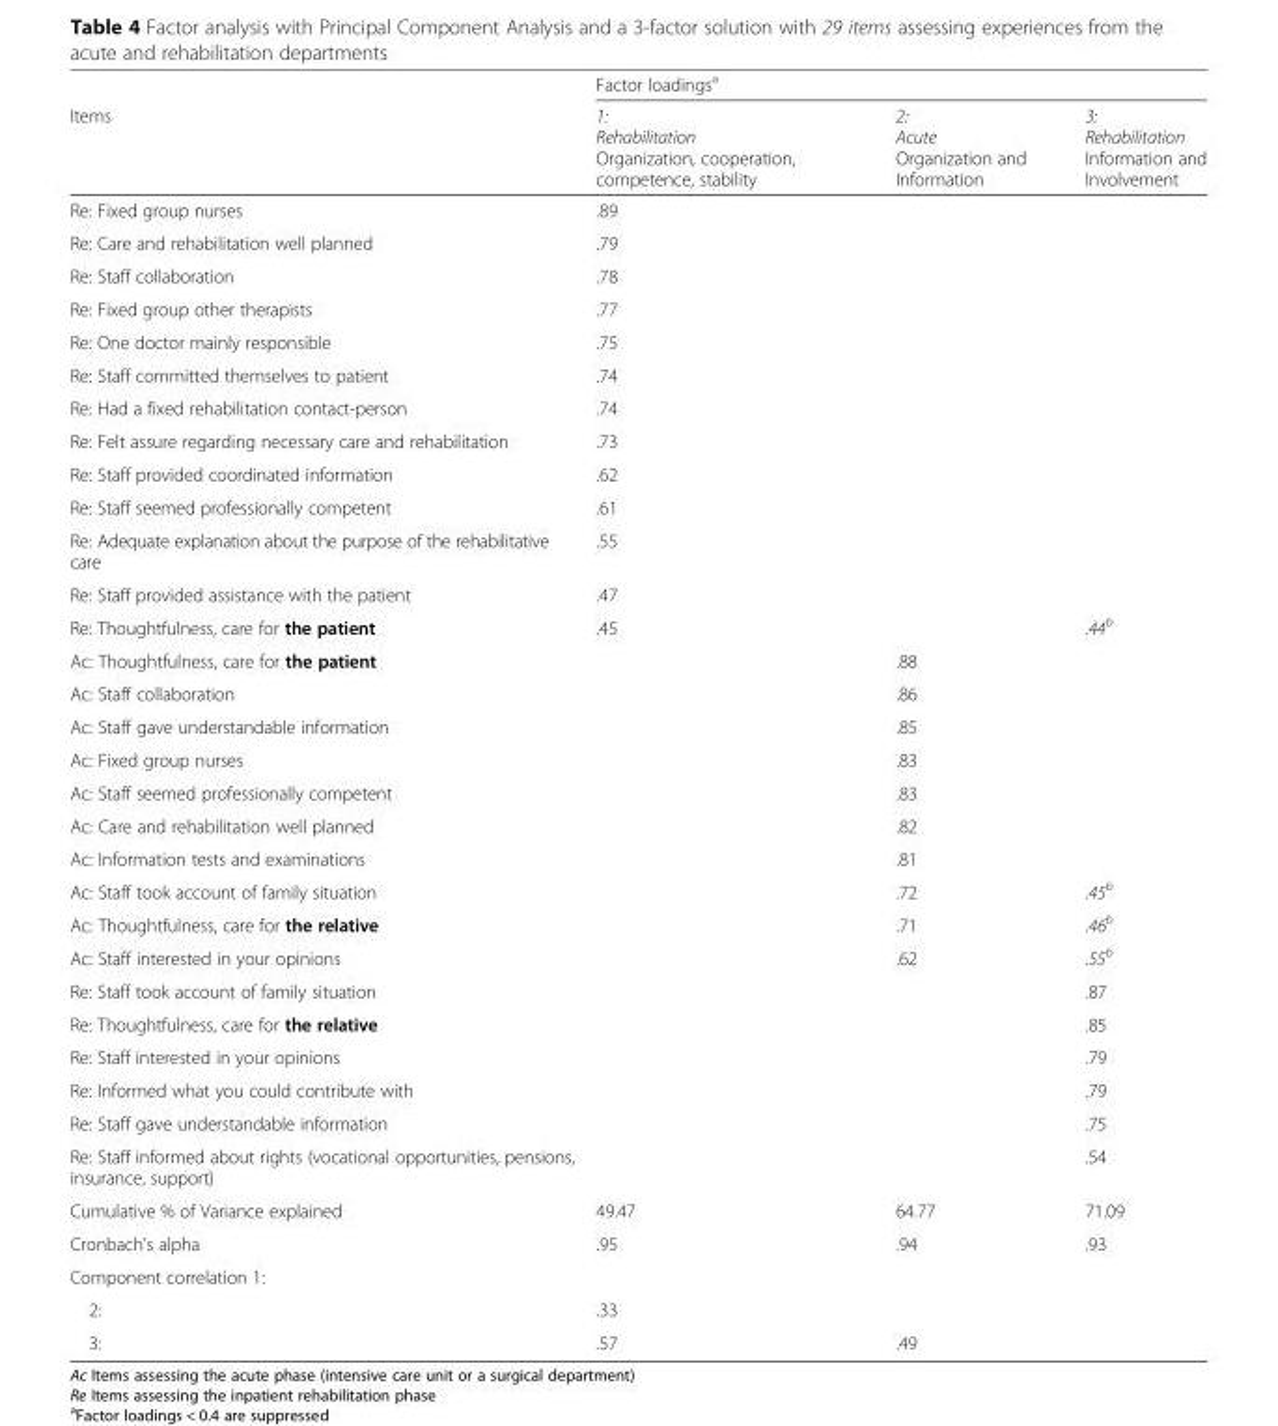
<table><thead><tr><td rowspan="2">Items</td><td colspan="3">Factor loadings<sup>a</sup></td></tr><tr><td>1: Rehabilitation Organization, cooperation, competence, stability</td><td>2: Acute Organization and Information</td><td>3: Rehabilitation Information and Involvement</td></tr></thead><tbody><tr><td>Re: Fixed group nurses</td><td>.89</td><td></td><td></td></tr><tr><td>Re: Care and rehabilitation well planned</td><td>.79</td><td></td><td></td></tr><tr><td>Re: Staff collaboration</td><td>.78</td><td></td><td></td></tr><tr><td>Re: Fixed group other therapists</td><td>.77</td><td></td><td></td></tr><tr><td>Re: One doctor mainly responsible</td><td>.75</td><td></td><td></td></tr><tr><td>Re: Staff committed themselves to patient</td><td>.74</td><td></td><td></td></tr><tr><td>Re: Had a fixed rehabilitation contact-person</td><td>.74</td><td></td><td></td></tr><tr><td>Re: Felt assure regarding necessary care and rehabilitation</td><td>.73</td><td></td><td></td></tr><tr><td>Re: Staff provided coordinated information</td><td>.62</td><td></td><td></td></tr><tr><td>Re: Staff seemed professionally competent</td><td>.61</td><td></td><td></td></tr><tr><td>Re: Adequate explanation about the purpose of the rehabilitative care</td><td>.55</td><td></td><td></td></tr><tr><td>Re: Staff provided assistance with the patient</td><td>.47</td><td></td><td></td></tr><tr><td>Re: Thoughtfulness, care for the patient</td><td>.45</td><td></td><td>.44<sup>b</sup></td></tr><tr><td>Ac: Thoughtfulness, care for the patient</td><td></td><td>.88</td><td></td></tr><tr><td>Ac: Staff collaboration</td><td></td><td>.86</td><td></td></tr><tr><td>Ac: Staff gave understandable information</td><td></td><td>.85</td><td></td></tr><tr><td>Ac: Fixed group nurses</td><td></td><td>.83</td><td></td></tr><tr><td>Ac: Staff seemed professionally competent</td><td></td><td>.83</td><td></td></tr><tr><td>Ac: Care and rehabilitation well planned</td><td></td><td>.82</td><td></td></tr><tr><td>Ac: Information tests and examinations</td><td></td><td>.81</td><td></td></tr><tr><td>Ac: Staff took account of family situation</td><td></td><td>.72</td><td>.45<sup>b</sup></td></tr><tr><td>Ac: Thoughtfulness, care for the relative</td><td></td><td>.71</td><td>.46<sup>b</sup></td></tr><tr><td>Ac: Staff interested in your opinions</td><td></td><td>.62</td><td>.55<sup>b</sup></td></tr><tr><td>Re: Staff took account of family situation</td><td></td><td></td><td>.87</td></tr><tr><td>Re: Thoughtfulness, care for the relative</td><td></td><td></td><td>.85</td></tr><tr><td>Re: Staff interested in your opinions</td><td></td><td></td><td>.79</td></tr><tr><td>Re: Informed what you could contribute with</td><td></td><td></td><td>.79</td></tr><tr><td>Re: Staff gave understandable information</td><td></td><td></td><td>.75</td></tr><tr><td>Re: Staff informed about rights (vocational opportunities, pensions, insurance, support)</td><td></td><td></td><td>.54</td></tr><tr><td>Cumulative % of Variance explained</td><td>49.47</td><td>64.77</td><td>71.09</td></tr><tr><td>Cronbach’s alpha</td><td>.95</td><td>.94</td><td>.93</td></tr><tr><td colspan="4">Component correlation 1:</td></tr><tr><td>2:</td><td>.33</td><td></td><td></td></tr><tr><td>3:</td><td>.57</td><td>.49</td><td></td></tr></tbody></table>